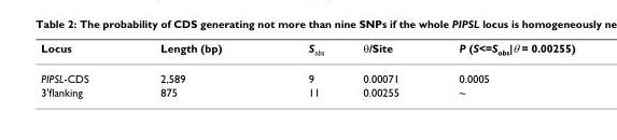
<table><thead><tr><td>Locus</td><td>Length (bp)</td><td>S<sub>obs</sub></td><td>θ/Site</td><td>P (S&lt;=S<sub>obs</sub>|θ = 0.00255)</td></tr></thead><tbody><tr><td>PIPSL-CDS</td><td>2,589</td><td>9</td><td>0.00071</td><td>0.0005</td></tr><tr><td>3&#x27;flanking</td><td>875</td><td>11</td><td>0.00255</td><td>~</td></tr></tbody></table>